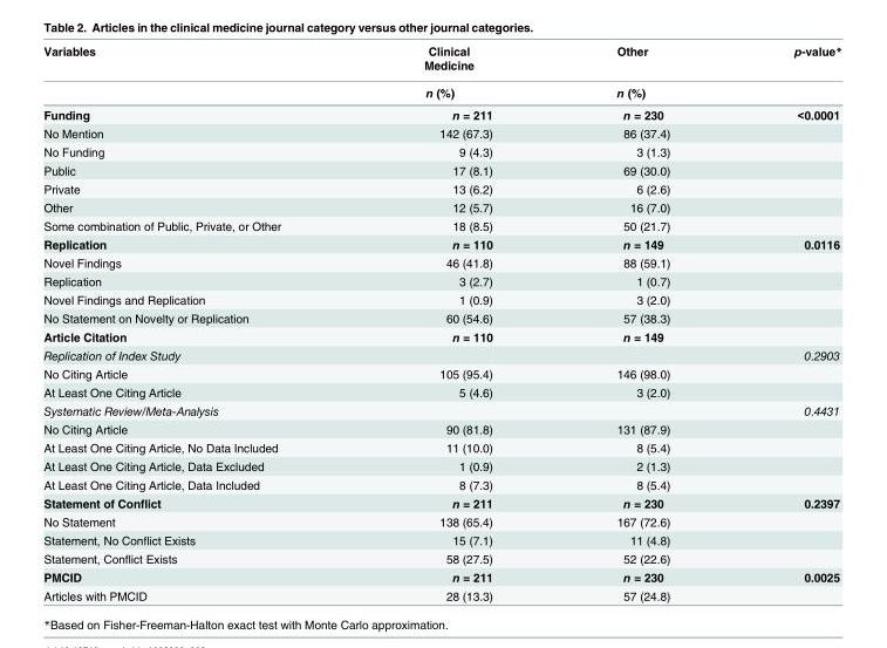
<table><thead><tr><td rowspan="2">Variables</td><td rowspan="2">Clinical Medicine n (%)</td><td rowspan="2">Other n (%)</td><td rowspan="2">p-value*</td></tr><tr></tr></thead><tbody><tr><td>Funding</td><td>n = 211</td><td>n = 230</td><td>&lt;0.0001</td></tr><tr><td>No Mention</td><td>142 (67.3)</td><td>86 (37.4)</td><td></td></tr><tr><td>No Funding</td><td>9 (4.3)</td><td>3 (1.3)</td><td></td></tr><tr><td>Public</td><td>17 (8.1)</td><td>69 (30.0)</td><td></td></tr><tr><td>Private</td><td>13 (6.2)</td><td>6 (2.6)</td><td></td></tr><tr><td>Other</td><td>12 (5.7)</td><td>16 (7.0)</td><td></td></tr><tr><td>Some combination of Public, Private, or Other</td><td>18 (8.5)</td><td>50 (21.7)</td><td></td></tr><tr><td>Replication</td><td>n = 110</td><td>n = 149</td><td>0.0116</td></tr><tr><td>Novel Findings</td><td>46 (41.8)</td><td>88 (59.1)</td><td></td></tr><tr><td>Replication</td><td>3 (2.7)</td><td>1 (0.7)</td><td></td></tr><tr><td>Novel Findings and Replication</td><td>1 (0.9)</td><td>3 (2.0)</td><td></td></tr><tr><td>No Statement on Novelty or Replication</td><td>60 (54.6)</td><td>57 (38.3)</td><td></td></tr><tr><td>Article Citation</td><td>n = 110</td><td>n = 149</td><td></td></tr><tr><td>Replication of Index Study</td><td></td><td></td><td>0.2903</td></tr><tr><td>No Citing Article</td><td>105 (95.4)</td><td>146 (98.0)</td><td></td></tr><tr><td>At Least One Citing Article</td><td>5 (4.6)</td><td>3 (2.0)</td><td></td></tr><tr><td>Systematic Review/Meta-Analysis</td><td></td><td></td><td>0.4431</td></tr><tr><td>No Citing Article</td><td>90 (81.8)</td><td>131 (87.9)</td><td></td></tr><tr><td>At Least One Citing Article, No Data Included</td><td>11 (10.0)</td><td>8 (5.4)</td><td></td></tr><tr><td>At Least One Citing Article, Data Excluded</td><td>1 (0.9)</td><td>2 (1.3)</td><td></td></tr><tr><td>At Least One Citing Article, Data Included</td><td>8 (7.3)</td><td>8 (5.4)</td><td></td></tr><tr><td>Statement of Conflict</td><td>n = 211</td><td>n = 230</td><td>0.2397</td></tr><tr><td>No Statement</td><td>138 (65.4)</td><td>167 (72.6)</td><td></td></tr><tr><td>Statement, No Conflict Exists</td><td>15 (7.1)</td><td>11 (4.8)</td><td></td></tr><tr><td>Statement, Conflict Exists</td><td>58 (27.5)</td><td>52 (22.6)</td><td></td></tr><tr><td>PMCID</td><td>n = 211</td><td>n = 230</td><td>0.0025</td></tr><tr><td>Articles with PMCID</td><td>28 (13.3)</td><td>57 (24.8)</td><td></td></tr></tbody></table>